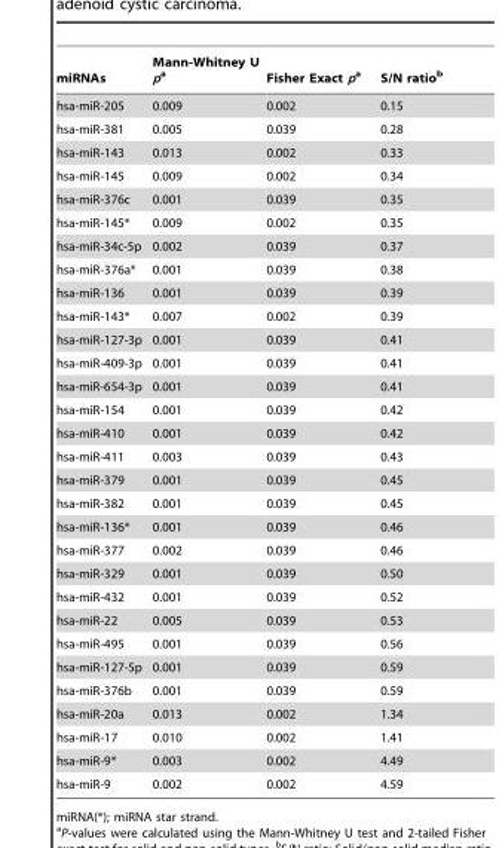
<table><thead><tr><td>miRNAs</td><td>Mann-Whitney U pa</td><td>Fisher Exact pa</td><td>S/N ratio<sup>b</sup></td></tr></thead><tbody><tr><td>hsa-miR-205</td><td>0.009</td><td>0.002</td><td>0.15</td></tr><tr><td>hsa-miR-381</td><td>0.005</td><td>0.039</td><td>0.28</td></tr><tr><td>hsa-miR-143</td><td>0.013</td><td>0.002</td><td>0.33</td></tr><tr><td>hsa-miR-145</td><td>0.009</td><td>0.002</td><td>0.34</td></tr><tr><td>hsa-miR-376c</td><td>0.001</td><td>0.039</td><td>0.35</td></tr><tr><td>hsa-miR-145*</td><td>0.009</td><td>0.002</td><td>0.35</td></tr><tr><td>hsa-miR-34c-5p</td><td>0.002</td><td>0.039</td><td>0.37</td></tr><tr><td>hsa-miR-376a*</td><td>0.001</td><td>0.039</td><td>0.38</td></tr><tr><td>hsa-miR-136</td><td>0.001</td><td>0.039</td><td>0.39</td></tr><tr><td>hsa-miR-143*</td><td>0.007</td><td>0.002</td><td>0.39</td></tr><tr><td>hsa-miR-127-3p</td><td>0.001</td><td>0.039</td><td>0.41</td></tr><tr><td>hsa-miR-409-3p</td><td>0.001</td><td>0.039</td><td>0.41</td></tr><tr><td>hsa-miR-654-3p</td><td>0.001</td><td>0.039</td><td>0.41</td></tr><tr><td>hsa-miR-154</td><td>0.001</td><td>0.039</td><td>0.42</td></tr><tr><td>hsa-miR-410</td><td>0.001</td><td>0.039</td><td>0.42</td></tr><tr><td>hsa-miR-411</td><td>0.003</td><td>0.039</td><td>0.43</td></tr><tr><td>hsa-miR-379</td><td>0.001</td><td>0.039</td><td>0.45</td></tr><tr><td>hsa-miR-382</td><td>0.001</td><td>0.039</td><td>0.45</td></tr><tr><td>hsa-miR-136*</td><td>0.001</td><td>0.039</td><td>0.46</td></tr><tr><td>hsa-miR-377</td><td>0.002</td><td>0.039</td><td>0.46</td></tr><tr><td>hsa-miR-329</td><td>0.001</td><td>0.039</td><td>0.50</td></tr><tr><td>hsa-miR-432</td><td>0.001</td><td>0.039</td><td>0.52</td></tr><tr><td>hsa-miR-22</td><td>0.005</td><td>0.039</td><td>0.53</td></tr><tr><td>hsa-miR-495</td><td>0.001</td><td>0.039</td><td>0.56</td></tr><tr><td>hsa-miR-127-5p</td><td>0.001</td><td>0.039</td><td>0.59</td></tr><tr><td>hsa-miR-376b</td><td>0.001</td><td>0.039</td><td>0.59</td></tr><tr><td>hsa-miR-20a</td><td>0.013</td><td>0.002</td><td>1.34</td></tr><tr><td>hsa-miR-17</td><td>0.010</td><td>0.002</td><td>1.41</td></tr><tr><td>hsa-miR-9*</td><td>0.003</td><td>0.002</td><td>4.49</td></tr><tr><td>hsa-miR-9</td><td>0.002</td><td>0.002</td><td>4.59</td></tr></tbody></table>